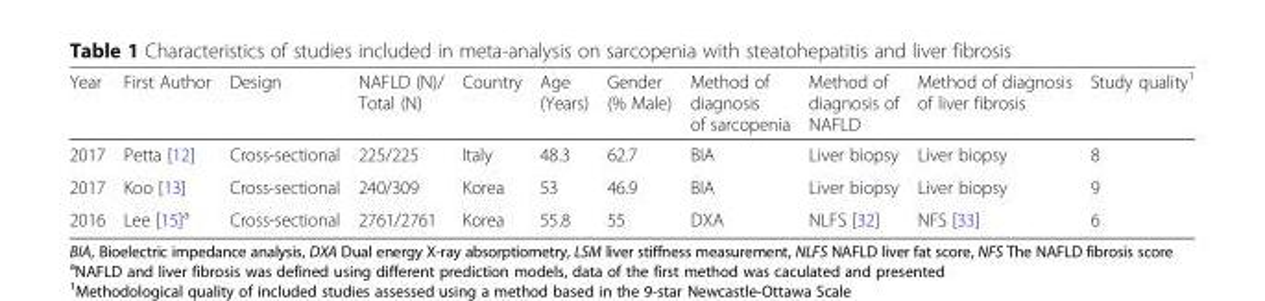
<table><thead><tr><td>Year</td><td>First Author</td><td>Design</td><td>NAFLD (N)/ Total (N)</td><td>Country</td><td>Age (Years)</td><td>Gender (% Male)</td><td>Method of diagnosis of sarcopenia</td><td>Method of diagnosis of NAFLD</td><td>Method of diagnosis of liver fibrosis</td><td>Study quality<sup>1</sup></td></tr></thead><tbody><tr><td>2017</td><td>Petta [12]</td><td>Cross-sectional</td><td>225/225</td><td>Italy</td><td>48.3</td><td>62.7</td><td>BIA</td><td>Liver biopsy</td><td>Liver biopsy</td><td>8</td></tr><tr><td>2017</td><td>Koo [13]</td><td>Cross-sectional</td><td>240/309</td><td>Korea</td><td>53</td><td>46.9</td><td>BIA</td><td>Liver biopsy</td><td>Liver biopsy</td><td>9</td></tr><tr><td>2016</td><td>Lee [15]<sup>a</sup></td><td>Cross-sectional</td><td>2761/2761</td><td>Korea</td><td>55.8</td><td>55</td><td>DXA</td><td>NLFS [32]</td><td>NFS [33]</td><td>6</td></tr></tbody></table>